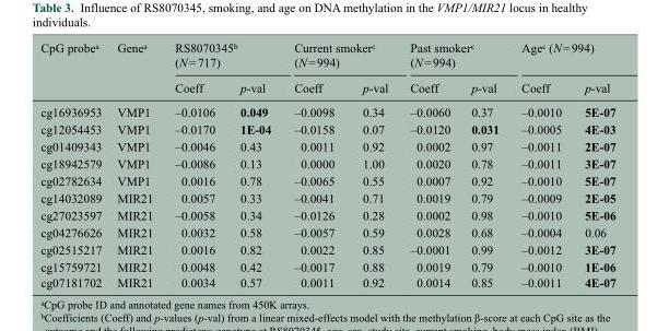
<table><thead><tr><td rowspan="2">CpG probe<sup>a</sup></td><td rowspan="2">Gene<sup>a</sup></td><td colspan="2">RS8070345<sup>b</sup> (N = 717)</td><td colspan="2">Current smoker<sup>c</sup> (N = 994)</td><td colspan="2">Past smoker<sup>c</sup> (N = 994)</td><td colspan="2">Age<sup>c</sup> (N = 994)</td></tr><tr><td>Coeff</td><td>p-val</td><td>Coeff</td><td>p-val</td><td>Coeff</td><td>p-val</td><td>Coeff</td><td>p-val</td></tr></thead><tbody><tr><td>cg16936953</td><td>VMP1</td><td>–0.0106</td><td>0.049</td><td>–0.0098</td><td>0.34</td><td>–0.0060</td><td>0.37</td><td>–0.0010</td><td>5E-07</td></tr><tr><td>cg12054453</td><td>VMP1</td><td>–0.0170</td><td>1E-04</td><td>–0.0158</td><td>0.07</td><td>–0.0120</td><td>0.031</td><td>–0.0005</td><td>4E-03</td></tr><tr><td>cg01409343</td><td>VMP1</td><td>–0.0046</td><td>0.43</td><td>0.0011</td><td>0.92</td><td>0.0002</td><td>0.97</td><td>–0.0011</td><td>2E-07</td></tr><tr><td>cg18942579</td><td>VMP1</td><td>–0.0086</td><td>0.13</td><td>0.0000</td><td>1.00</td><td>0.0020</td><td>0.78</td><td>–0.0011</td><td>3E-07</td></tr><tr><td>cg02782634</td><td>VMP1</td><td>0.0016</td><td>0.78</td><td>–0.0065</td><td>0.55</td><td>0.0007</td><td>0.92</td><td>–0.0010</td><td>5E-07</td></tr><tr><td>cg14032089</td><td>MIR21</td><td>0.0057</td><td>0.33</td><td>–0.0041</td><td>0.71</td><td>0.0019</td><td>0.79</td><td>–0.0009</td><td>2E-05</td></tr><tr><td>cg27023597</td><td>MIR21</td><td>–0.0058</td><td>0.34</td><td>–0.0126</td><td>0.28</td><td>0.0002</td><td>0.98</td><td>–0.0010</td><td>5E-06</td></tr><tr><td>cg04276626</td><td>MIR21</td><td>0.0032</td><td>0.58</td><td>–0.0057</td><td>0.59</td><td>0.0028</td><td>0.68</td><td>–0.0004</td><td>0.06</td></tr><tr><td>cg02515217</td><td>MIR21</td><td>0.0016</td><td>0.82</td><td>0.0022</td><td>0.85</td><td>–0.0001</td><td>0.99</td><td>–0.0012</td><td>3E-07</td></tr><tr><td>cg15759721</td><td>MIR21</td><td>0.0048</td><td>0.42</td><td>–0.0017</td><td>0.88</td><td>0.0019</td><td>0.79</td><td>–0.0010</td><td>1E-06</td></tr><tr><td>cg07181702</td><td>MIR21</td><td>0.0034</td><td>0.57</td><td>0.0011</td><td>0.92</td><td>0.0014</td><td>0.85</td><td>–0.0011</td><td>4E-07</td></tr></tbody></table>